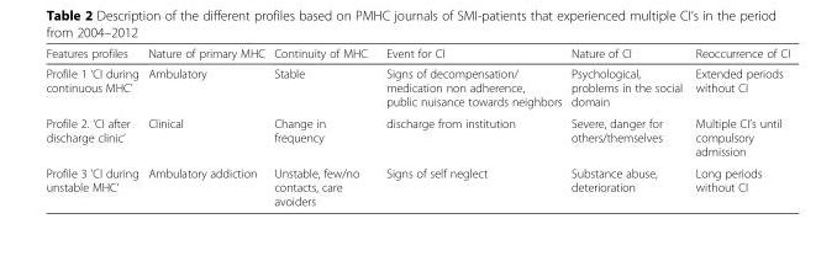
<table><thead><tr><td>Features profiles</td><td>Nature of primary MHC</td><td>Continuity of MHC</td><td>Event for CI</td><td>Nature of CI</td><td>Reoccurrence of CI</td></tr></thead><tbody><tr><td>Profile 1 ‘CI during continuous MHC’</td><td>Ambulatory</td><td>Stable</td><td>Signs of decompensation/ medication non adherence, public nuisance towards neighbors</td><td>Psychological, problems in the social domain</td><td>Extended periods without CI</td></tr><tr><td>Profile 2. ‘CI after discharge clinic’</td><td>Clinical</td><td>Change in frequency</td><td>discharge from institution</td><td>Severe, danger for others/themselves</td><td>Multiple CI’s until compulsory admission</td></tr><tr><td>Profile 3 ‘CI during unstable MHC’</td><td>Ambulatory addiction</td><td>Unstable, few/no contacts, care avoiders</td><td>Signs of self neglect</td><td>Substance abuse, deterioration</td><td>Long periods without CI</td></tr></tbody></table>